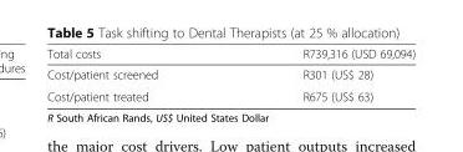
<table><thead><tr><td>Total costs</td><td>R739,316 (USD 69,094)</td></tr></thead><tbody><tr><td>Cost/patient screened</td><td>R301 (US$ 28)</td></tr><tr><td>Cost/patient treated</td><td>R675 (US$ 63)</td></tr></tbody></table>